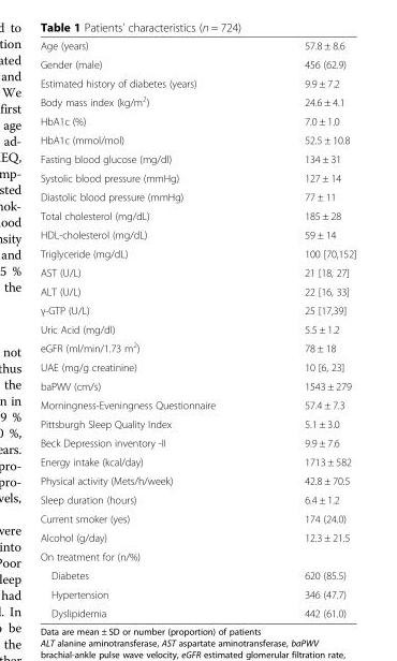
<table><tbody><tr><td>Age (years)</td><td>57.8 ± 8.6</td></tr><tr><td>Gender (male)</td><td>456 (62.9)</td></tr><tr><td>Estimated history of diabetes (years)</td><td>9.9 ± 7.2</td></tr><tr><td>Body mass index (kg/m<sup>2</sup>)</td><td>24.6 ± 4.1</td></tr><tr><td>HbA1c (%)</td><td>7.0 ± 1.0</td></tr><tr><td>HbA1c (mmol/mol)</td><td>52.5 ± 10.8</td></tr><tr><td>Fasting blood glucose (mg/dl)</td><td>134 ± 31</td></tr><tr><td>Systolic blood pressure (mmHg)</td><td>127 ± 14</td></tr><tr><td>Diastolic blood pressure (mmHg)</td><td>77 ± 11</td></tr><tr><td>Total cholesterol (mg/dL)</td><td>185 ± 28</td></tr><tr><td>HDL-cholesterol (mg/dL)</td><td>59 ± 14</td></tr><tr><td>Triglyceride (mg/dL)</td><td>100 [70,152]</td></tr><tr><td>AST (U/L)</td><td>21 [18, 27]</td></tr><tr><td>ALT (U/L)</td><td>22 [16, 33]</td></tr><tr><td>γ-GTP (U/L)</td><td>25 [17,39]</td></tr><tr><td>Uric Acid (mg/dl)</td><td>5.5 ± 1.2</td></tr><tr><td>eGFR (ml/min/1.73 m<sup>2</sup>)</td><td>78 ± 18</td></tr><tr><td>UAE (mg/g creatinine)</td><td>10 [6, 23]</td></tr><tr><td>baPWV (cm/s)</td><td>1543 ± 279</td></tr><tr><td>Morningness-Eveningness Questionnaire</td><td>57.4 ± 7.3</td></tr><tr><td>Pittsburgh Sleep Quality Index</td><td>5.1 ± 3.0</td></tr><tr><td>Beck Depression inventory -II</td><td>9.9 ± 7.6</td></tr><tr><td>Energy intake (kcal/day)</td><td>1713 ± 582</td></tr><tr><td>Physical activity (Mets/h/week)</td><td>42.8 ± 70.5</td></tr><tr><td>Sleep duration (hours)</td><td>6.4 ± 1.2</td></tr><tr><td>Current smoker (yes)</td><td>174 (24.0)</td></tr><tr><td>Alcohol (g/day)</td><td>12.3 ± 21.5</td></tr><tr><td colspan="2">On treatment for (n/%)</td></tr><tr><td>Diabetes</td><td>620 (85.5)</td></tr><tr><td>Hypertension</td><td>346 (47.7)</td></tr><tr><td>Dyslipidemia</td><td>442 (61.0)</td></tr></tbody></table>